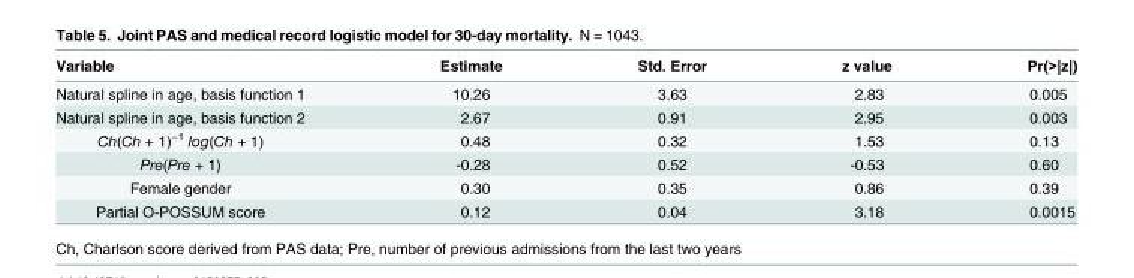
<table><thead><tr><td>Variable</td><td>Estimate</td><td>Std. Error</td><td>z value</td><td>Pr(&gt;|z|)</td></tr></thead><tbody><tr><td>Natural spline in age, basis function 1</td><td>10.26</td><td>3.63</td><td>2.83</td><td>0.005</td></tr><tr><td>Natural spline in age, basis function 2</td><td>2.67</td><td>0.91</td><td>2.95</td><td>0.003</td></tr><tr><td>Ch(Ch + 1)<sup>−1</sup> log(Ch + 1)</td><td>0.48</td><td>0.32</td><td>1.53</td><td>0.13</td></tr><tr><td>Pre(Pre + 1)</td><td>-0.28</td><td>0.52</td><td>-0.53</td><td>0.60</td></tr><tr><td>Female gender</td><td>0.30</td><td>0.35</td><td>0.86</td><td>0.39</td></tr><tr><td>Partial O-POSSUM score</td><td>0.12</td><td>0.04</td><td>3.18</td><td>0.0015</td></tr></tbody></table>